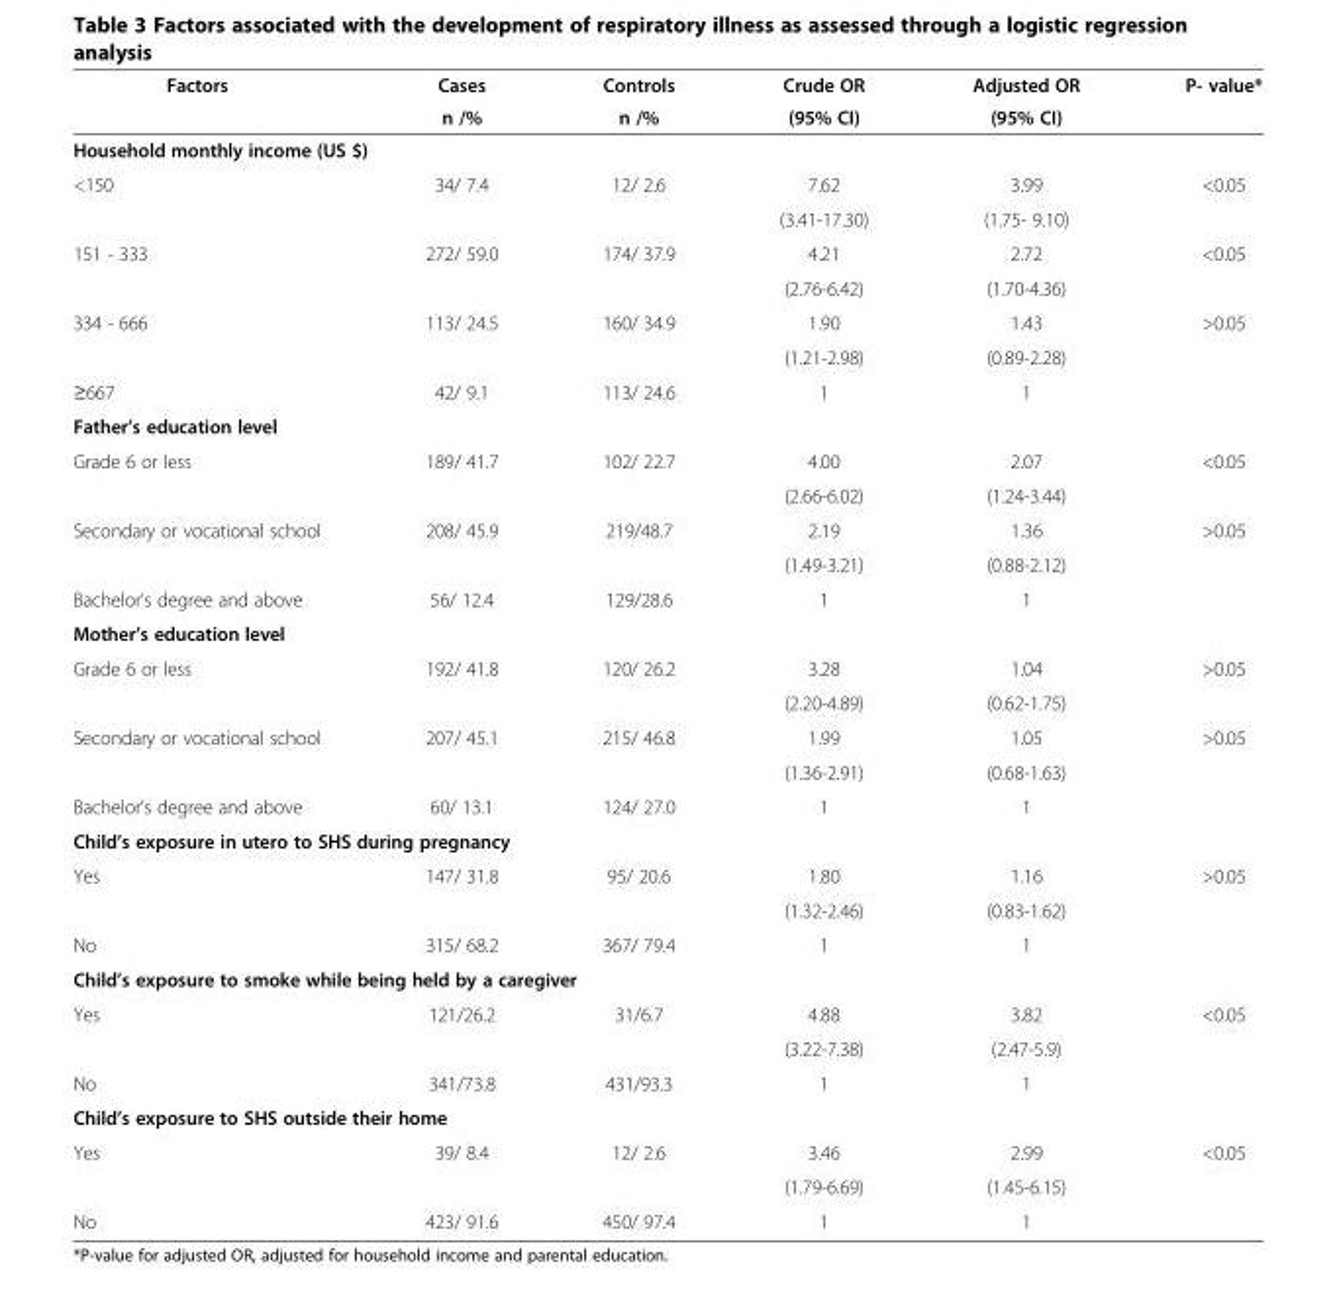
<table><thead><tr><td rowspan="2">Factors</td><td rowspan="2">Cases n /%</td><td rowspan="2">Controls n /%</td><td rowspan="2">Crude OR (95% CI)</td><td rowspan="2">Adjusted OR (95% CI)</td><td rowspan="2">P- value*</td></tr><tr></tr></thead><tbody><tr><td colspan="6">Household monthly income (US $)</td></tr><tr><td rowspan="2">&lt;150</td><td rowspan="2">34/ 7.4</td><td rowspan="2">12/ 2.6</td><td>7.62</td><td>3.99</td><td rowspan="2">&lt;0.05</td></tr><tr><td>(3.41-17.30)</td><td>(1.75- 9.10)</td></tr><tr><td rowspan="2">151 - 333</td><td rowspan="2">272/ 59.0</td><td rowspan="2">174/ 37.9</td><td>4.21</td><td>2.72</td><td rowspan="2">&lt;0.05</td></tr><tr><td>(2.76-6.42)</td><td>(1.70-4.36)</td></tr><tr><td rowspan="2">334 - 666</td><td rowspan="2">113/ 24.5</td><td rowspan="2">160/ 34.9</td><td>1.90</td><td>1.43</td><td rowspan="2">&gt;0.05</td></tr><tr><td>(1.21-2.98)</td><td>(0.89-2.28)</td></tr><tr><td>≥667</td><td>42/ 9.1</td><td>113/ 24.6</td><td>1</td><td>1</td><td></td></tr><tr><td colspan="6">Father’s education level</td></tr><tr><td rowspan="2">Grade 6 or less</td><td rowspan="2">189/ 41.7</td><td rowspan="2">102/ 22.7</td><td>4.00</td><td>2.07</td><td rowspan="2">&lt;0.05</td></tr><tr><td>(2.66-6.02)</td><td>(1.24-3.44)</td></tr><tr><td rowspan="2">Secondary or vocational school</td><td rowspan="2">208/ 45.9</td><td rowspan="2">219/48.7</td><td>2.19</td><td>1.36</td><td rowspan="2">&gt;0.05</td></tr><tr><td>(1.49-3.21)</td><td>(0.88-2.12)</td></tr><tr><td>Bachelor’s degree and above</td><td>56/ 12.4</td><td>129/28.6</td><td>1</td><td>1</td><td></td></tr><tr><td colspan="6">Mother’s education level</td></tr><tr><td rowspan="2">Grade 6 or less</td><td rowspan="2">192/ 41.8</td><td rowspan="2">120/ 26.2</td><td>3.28</td><td>1.04</td><td rowspan="2">&gt;0.05</td></tr><tr><td>(2.20-4.89)</td><td>(0.62-1.75)</td></tr><tr><td rowspan="2">Secondary or vocational school</td><td rowspan="2">207/ 45.1</td><td rowspan="2">215/ 46.8</td><td>1.99</td><td>1.05</td><td rowspan="2">&gt;0.05</td></tr><tr><td>(1.36-2.91)</td><td>(0.68-1.63)</td></tr><tr><td>Bachelor’s degree and above</td><td>60/ 13.1</td><td>124/ 27.0</td><td>1</td><td>1</td><td></td></tr><tr><td colspan="6">Child’s exposure in utero to SHS during pregnancy</td></tr><tr><td rowspan="2">Yes</td><td rowspan="2">147/ 31.8</td><td rowspan="2">95/ 20.6</td><td>1.80</td><td>1.16</td><td rowspan="2">&gt;0.05</td></tr><tr><td>(1.32-2.46)</td><td>(0.83-1.62)</td></tr><tr><td>No</td><td>315/ 68.2</td><td>367/ 79.4</td><td>1</td><td>1</td><td></td></tr><tr><td colspan="6">Child’s exposure to smoke while being held by a caregiver</td></tr><tr><td rowspan="2">Yes</td><td rowspan="2">121/26.2</td><td rowspan="2">31/6.7</td><td>4.88</td><td>3.82</td><td rowspan="2">&lt;0.05</td></tr><tr><td>(3.22-7.38)</td><td>(2.47-5.9)</td></tr><tr><td>No</td><td>341/73.8</td><td>431/93.3</td><td>1</td><td>1</td><td></td></tr><tr><td colspan="6">Child’s exposure to SHS outside their home</td></tr><tr><td rowspan="2">Yes</td><td rowspan="2">39/ 8.4</td><td rowspan="2">12/ 2.6</td><td>3.46</td><td>2.99</td><td rowspan="2">&lt;0.05</td></tr><tr><td>(1.79-6.69)</td><td>(1.45-6.15)</td></tr><tr><td>No</td><td>423/ 91.6</td><td>450/ 97.4</td><td>1</td><td>1</td><td></td></tr></tbody></table>